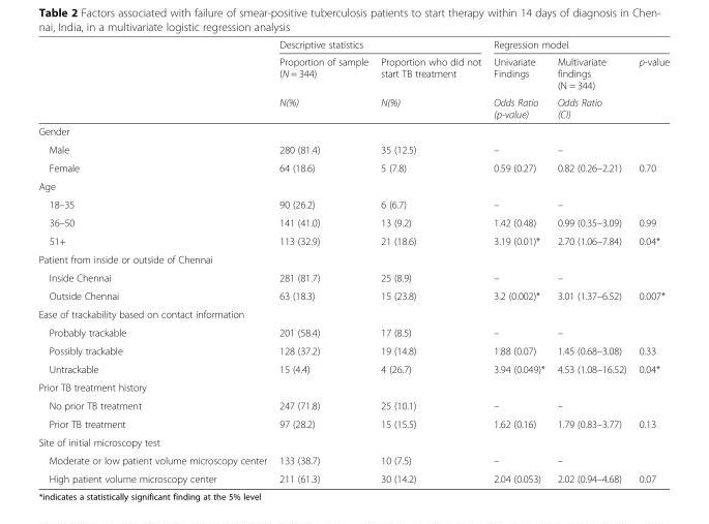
<table><thead><tr><td rowspan="3"></td><td colspan="2">Descriptive statistics</td><td colspan="3">Regression model</td></tr><tr><td rowspan="2">Proportion of sample (N = 344) N(%)</td><td rowspan="2">Proportion who did not start TB treatment N(%)</td><td rowspan="2">Univariate Findings Odds Ratio (p-value)</td><td rowspan="2">Multivariate findings (N = 344) Odds Ratio (CI)</td><td rowspan="2">p-value</td></tr><tr></tr></thead><tbody><tr><td colspan="6">Gender</td></tr><tr><td>Male</td><td>280 (81.4)</td><td>35 (12.5)</td><td>–</td><td>–</td><td></td></tr><tr><td>Female</td><td>64 (18.6)</td><td>5 (7.8)</td><td>0.59 (0.27)</td><td>0.82 (0.26–2.21)</td><td>0.70</td></tr><tr><td colspan="6">Age</td></tr><tr><td>18–35</td><td>90 (26.2)</td><td>6 (6.7)</td><td>–</td><td>–</td><td></td></tr><tr><td>36–50</td><td>141 (41.0)</td><td>13 (9.2)</td><td>1.42 (0.48)</td><td>0.99 (0.35–3.09)</td><td>0.99</td></tr><tr><td>51+</td><td>113 (32.9)</td><td>21 (18.6)</td><td>3.19 (0.01)*</td><td>2.70 (1.06–7.84)</td><td>0.04*</td></tr><tr><td colspan="6">Patient from inside or outside of Chennai</td></tr><tr><td>Inside Chennai</td><td>281 (81.7)</td><td>25 (8.9)</td><td>–</td><td>–</td><td></td></tr><tr><td>Outside Chennai</td><td>63 (18.3)</td><td>15 (23.8)</td><td>3.2 (0.002)*</td><td>3.01 (1.37–6.52)</td><td>0.007*</td></tr><tr><td colspan="6">Ease of trackability based on contact information</td></tr><tr><td>Probably trackable</td><td>201 (58.4)</td><td>17 (8.5)</td><td>–</td><td>–</td><td></td></tr><tr><td>Possibly trackable</td><td>128 (37.2)</td><td>19 (14.8)</td><td>1.88 (0.07)</td><td>1.45 (0.68–3.08)</td><td>0.33</td></tr><tr><td>Untrackable</td><td>15 (4.4)</td><td>4 (26.7)</td><td>3.94 (0.049)*</td><td>4.53 (1.08–16.52)</td><td>0.04*</td></tr><tr><td colspan="6">Prior TB treatment history</td></tr><tr><td>No prior TB treatment</td><td>247 (71.8)</td><td>25 (10.1)</td><td>–</td><td>–</td><td></td></tr><tr><td>Prior TB treatment</td><td>97 (28.2)</td><td>15 (15.5)</td><td>1.62 (0.16)</td><td>1.79 (0.83–3.77)</td><td>0.13</td></tr><tr><td colspan="6">Site of initial microscopy test</td></tr><tr><td>Moderate or low patient volume microscopy center</td><td>133 (38.7)</td><td>10 (7.5)</td><td>–</td><td>–</td><td></td></tr><tr><td>High patient volume microscopy center</td><td>211 (61.3)</td><td>30 (14.2)</td><td>2.04 (0.053)</td><td>2.02 (0.94–4.68)</td><td>0.07</td></tr></tbody></table>